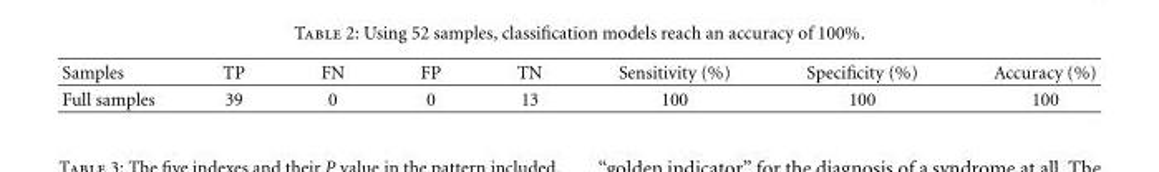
<table><thead><tr><td>Samples</td><td>TP</td><td>FN</td><td>FP</td><td>TN</td><td>Sensitivity (%)</td><td>Specificity (%)</td><td>Accuracy (%)</td></tr></thead><tbody><tr><td>Full samples</td><td>39</td><td>0</td><td>0</td><td>13</td><td>100</td><td>100</td><td>100</td></tr></tbody></table>